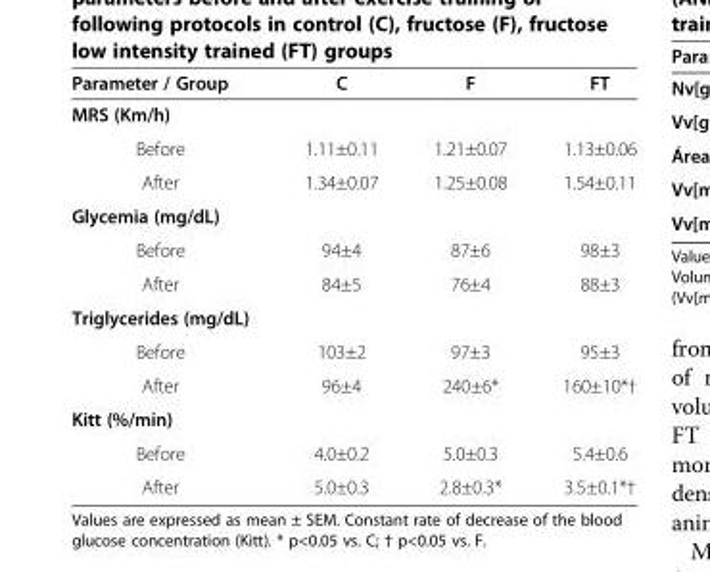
<table><thead><tr><td>Parameter / Group</td><td>C</td><td>F</td><td>FT</td></tr></thead><tbody><tr><td colspan="4">MRS (Km/h)</td></tr><tr><td>Before</td><td>1.11±0.11</td><td>1.21±0.07</td><td>1.13±0.06</td></tr><tr><td>After</td><td>1.34±0.07</td><td>1.25±0.08</td><td>1.54±0.11</td></tr><tr><td colspan="4">Glycemia (mg/dL)</td></tr><tr><td>Before</td><td>94±4</td><td>87±6</td><td>98±3</td></tr><tr><td>After</td><td>84±5</td><td>76±4</td><td>88±3</td></tr><tr><td colspan="4">Triglycerides (mg/dL)</td></tr><tr><td>Before</td><td>103±2</td><td>97±3</td><td>95±3</td></tr><tr><td>After</td><td>96±4</td><td>240±6*</td><td>160±10*†</td></tr><tr><td colspan="4">Kitt (%/min)</td></tr><tr><td>Before</td><td>4.0±0.2</td><td>5.0±0.3</td><td>5.4±0.6</td></tr><tr><td>After</td><td>5.0±0.3</td><td>2.8±0.3*</td><td>3.5±0.1*†</td></tr></tbody></table>